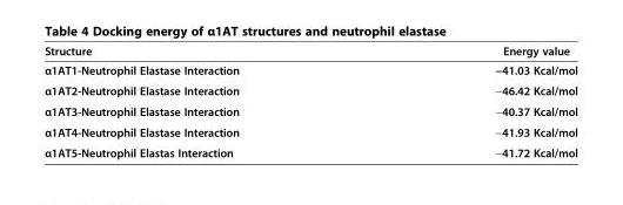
<table><thead><tr><td>Structure</td><td>Energy value</td></tr></thead><tbody><tr><td>α1AT1-Neutrophil Elastase Interaction</td><td>−41.03 Kcal/mol</td></tr><tr><td>α1AT2-Neutrophil Elastase Interaction</td><td>−46.42 Kcal/mol</td></tr><tr><td>α1AT3-Neutrophil Elastase Interaction</td><td>−40.37 Kcal/mol</td></tr><tr><td>α1AT4-Neutrophil Elastase Interaction</td><td>−41.93 Kcal/mol</td></tr><tr><td>α1AT5-Neutrophil Elastas Interaction</td><td>−41.72 Kcal/mol</td></tr></tbody></table>